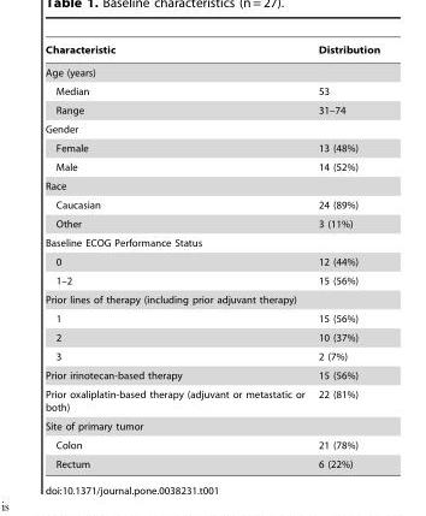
<table><thead><tr><td>Characteristic</td><td>Distribution</td></tr></thead><tbody><tr><td colspan="2">Age (years)</td></tr><tr><td>Median</td><td>53</td></tr><tr><td>Range</td><td>31–74</td></tr><tr><td colspan="2">Gender</td></tr><tr><td>Female</td><td>13 (48%)</td></tr><tr><td>Male</td><td>14 (52%)</td></tr><tr><td colspan="2">Race</td></tr><tr><td>Caucasian</td><td>24 (89%)</td></tr><tr><td>Other</td><td>3 (11%)</td></tr><tr><td colspan="2">Baseline ECOG Performance Status</td></tr><tr><td>0</td><td>12 (44%)</td></tr><tr><td>1–2</td><td>15 (56%)</td></tr><tr><td colspan="2">Prior lines of therapy (including prior adjuvant therapy)</td></tr><tr><td>1</td><td>15 (56%)</td></tr><tr><td>2</td><td>10 (37%)</td></tr><tr><td>3</td><td>2 (7%)</td></tr><tr><td>Prior irinotecan-based therapy</td><td>15 (56%)</td></tr><tr><td>Prior oxaliplatin-based therapy (adjuvant or metastatic or both)</td><td>22 (81%)</td></tr><tr><td colspan="2">Site of primary tumor</td></tr><tr><td>Colon</td><td>21 (78%)</td></tr><tr><td>Rectum</td><td>6 (22%)</td></tr></tbody></table>